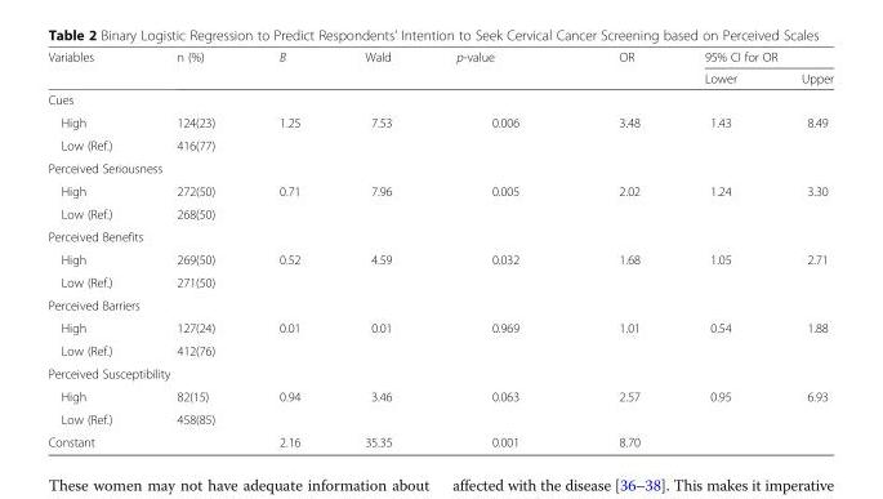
<table><thead><tr><td rowspan="2">Variables</td><td rowspan="2">n (%)</td><td rowspan="2">Β</td><td rowspan="2">Wald</td><td rowspan="2">p-value</td><td rowspan="2">OR</td><td colspan="2">95% CI for OR</td></tr><tr><td>Lower</td><td>Upper</td></tr></thead><tbody><tr><td colspan="8">Cues</td></tr><tr><td>High</td><td>124(23)</td><td>1.25</td><td>7.53</td><td>0.006</td><td>3.48</td><td>1.43</td><td>8.49</td></tr><tr><td>Low (Ref.)</td><td>416(77)</td><td></td><td></td><td></td><td></td><td></td><td></td></tr><tr><td colspan="8">Perceived Seriousness</td></tr><tr><td>High</td><td>272(50)</td><td>0.71</td><td>7.96</td><td>0.005</td><td>2.02</td><td>1.24</td><td>3.30</td></tr><tr><td>Low (Ref.)</td><td>268(50)</td><td></td><td></td><td></td><td></td><td></td><td></td></tr><tr><td colspan="8">Perceived Benefits</td></tr><tr><td>High</td><td>269(50)</td><td>0.52</td><td>4.59</td><td>0.032</td><td>1.68</td><td>1.05</td><td>2.71</td></tr><tr><td>Low (Ref.)</td><td>271(50)</td><td></td><td></td><td></td><td></td><td></td><td></td></tr><tr><td colspan="8">Perceived Barriers</td></tr><tr><td>High</td><td>127(24)</td><td>0.01</td><td>0.01</td><td>0.969</td><td>1.01</td><td>0.54</td><td>1.88</td></tr><tr><td>Low (Ref.)</td><td>412(76)</td><td></td><td></td><td></td><td></td><td></td><td></td></tr><tr><td colspan="8">Perceived Susceptibility</td></tr><tr><td>High</td><td>82(15)</td><td>0.94</td><td>3.46</td><td>0.063</td><td>2.57</td><td>0.95</td><td>6.93</td></tr><tr><td>Low (Ref.)</td><td>458(85)</td><td></td><td></td><td></td><td></td><td></td><td></td></tr><tr><td colspan="2">Constant</td><td>2.16</td><td>35.35</td><td>0.001</td><td>8.70</td><td></td><td></td></tr></tbody></table>